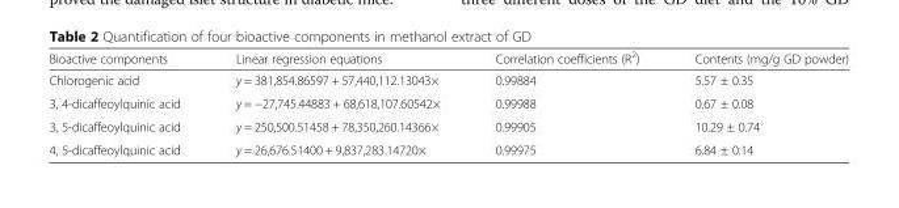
<table><thead><tr><td>Bioactive components</td><td>Linear regression equations</td><td>Correlation coefficients (R<sup>2</sup>)</td><td>Contents (mg/g GD powder)</td></tr></thead><tbody><tr><td>Chlorogenic acid</td><td>y = 381,854.86597 + 57,440,112.13043×</td><td>0.99884</td><td>5.57 ± 0.35</td></tr><tr><td>3, 4-dicaffeoylquinic acid</td><td>y = −27,745.44883 + 68,618,107.60542×</td><td>0.99988</td><td>0.67 ± 0.08</td></tr><tr><td>3, 5-dicaffeoylquinic acid</td><td>y = 250,500.51458 + 78,350,260.14366×</td><td>0.99905</td><td>10.29 ± 0.74</td></tr><tr><td>4, 5-dicaffeoylquinic acid</td><td>y = 26,676.51400 + 9,837,283.14720×</td><td>0.99975</td><td>6.84 ± 0.14</td></tr></tbody></table>